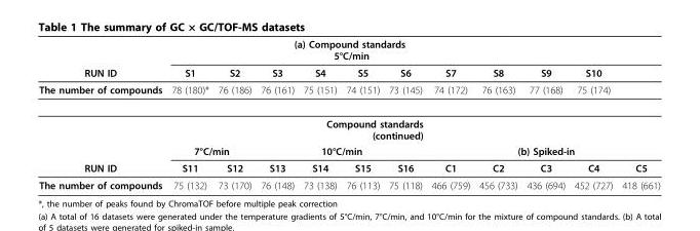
<table><thead><tr><td colspan="12">(a) Compound standards 5°C/min</td></tr><tr><td rowspan="2">RUN ID The number of compounds</td><td rowspan="2">S1 78 (180)*</td><td rowspan="2">S2 76 (186)</td><td rowspan="2">S3 76 (161)</td><td rowspan="2">S4 75 (151)</td><td rowspan="2">S5 74 (151)</td><td rowspan="2">S6 73 (145)</td><td rowspan="2">S7 74 (172)</td><td rowspan="2">S8 76 (163)</td><td rowspan="2">S9 77 (168)</td><td rowspan="2">S10 75 (174)</td><td rowspan="2"></td></tr><tr></tr></thead><tbody><tr><td></td><td colspan="6">Compound standards (continued)</td><td></td><td></td><td></td><td></td><td></td></tr><tr><td></td><td colspan="2">7°C/min</td><td colspan="4">10°C/min</td><td colspan="5">(b) Spiked-in</td></tr><tr><td>RUN ID</td><td>S11</td><td>S12</td><td>S13</td><td>S14</td><td>S15</td><td>S16</td><td>C1</td><td>C2</td><td>C3</td><td>C4</td><td>C5</td></tr><tr><td>The number of compounds</td><td>75 (132)</td><td>73 (170)</td><td>76 (148)</td><td>73 (138)</td><td>76 (113)</td><td>75 (118)</td><td>466 (759)</td><td>456 (733)</td><td>436 (694)</td><td>452 (727)</td><td>418 (661)</td></tr></tbody></table>